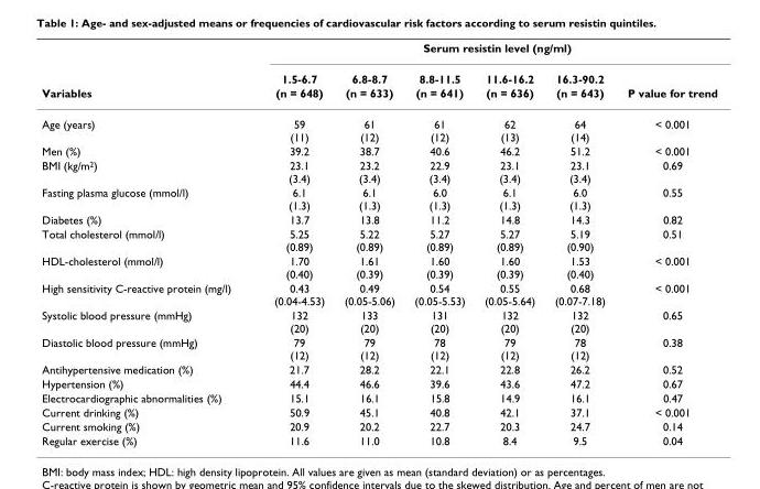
<table><thead><tr><td rowspan="3">Variables</td><td colspan="6">Serum resistin level (ng/ml)</td></tr><tr><td rowspan="2">1.5-6.7 (n = 648)</td><td rowspan="2">6.8-8.7 (n = 633)</td><td rowspan="2">8.8-11.5 (n = 641)</td><td rowspan="2">11.6-16.2 (n = 636)</td><td rowspan="2">16.3-90.2 (n = 643)</td><td rowspan="2">P value for trend</td></tr><tr></tr></thead><tbody><tr><td>Age (years)</td><td>59 (11)</td><td>61 (12)</td><td>61 (12)</td><td>62 (13)</td><td>64 (14)</td><td>&lt; 0.001</td></tr><tr><td>Men (%)</td><td>39.2</td><td>38.7</td><td>40.6</td><td>46.2</td><td>51.2</td><td>&lt; 0.001</td></tr><tr><td>BMI (kg/m<sup>2</sup>)</td><td>23.1 (3.4)</td><td>23.2 (3.4)</td><td>22.9 (3.4)</td><td>23.1 (3.4)</td><td>23.1 (3.4)</td><td>0.69</td></tr><tr><td>Fasting plasma glucose (mmol/l)</td><td>6.1 (1.3)</td><td>6.1 (1.3)</td><td>6.0 (1.3)</td><td>6.1 (1.3)</td><td>6.0 (1.3)</td><td>0.55</td></tr><tr><td>Diabetes (%)</td><td>13.7</td><td>13.8</td><td>11.2</td><td>14.8</td><td>14.3</td><td>0.82</td></tr><tr><td>Total cholesterol (mmol/l)</td><td>5.25 (0.89)</td><td>5.22 (0.89)</td><td>5.27 (0.89)</td><td>5.27 (0.89)</td><td>5.19 (0.90)</td><td>0.51</td></tr><tr><td>HDL-cholesterol (mmol/l)</td><td>1.70 (0.40)</td><td>1.61 (0.39)</td><td>1.60 (0.39)</td><td>1.60 (0.39)</td><td>1.53 (0.40)</td><td>&lt; 0.001</td></tr><tr><td>High sensitivity C-reactive protein (mg/l)</td><td>0.43 (0.04-4.53)</td><td>0.49 (0.05-5.06)</td><td>0.54 (0.05-5.53)</td><td>0.55 (0.05-5.64)</td><td>0.68 (0.07-7.18)</td><td>&lt; 0.001</td></tr><tr><td>Systolic blood pressure (mmHg)</td><td>132 (20)</td><td>133 (20)</td><td>131 (20)</td><td>132 (20)</td><td>132 (20)</td><td>0.65</td></tr><tr><td>Diastolic blood pressure (mmHg)</td><td>79 (12)</td><td>79 (12)</td><td>78 (12)</td><td>79 (12)</td><td>78 (12)</td><td>0.38</td></tr><tr><td>Antihypertensive medication (%)</td><td>21.7</td><td>28.2</td><td>22.1</td><td>22.8</td><td>26.2</td><td>0.52</td></tr><tr><td>Hypertension (%)</td><td>44.4</td><td>46.6</td><td>39.6</td><td>43.6</td><td>47.2</td><td>0.67</td></tr><tr><td>Electrocardiographic abnormalities (%)</td><td>15.1</td><td>16.1</td><td>15.8</td><td>14.9</td><td>16.1</td><td>0.47</td></tr><tr><td>Current drinking (%)</td><td>50.9</td><td>45.1</td><td>40.8</td><td>42.1</td><td>37.1</td><td>&lt; 0.001</td></tr><tr><td>Current smoking (%)</td><td>20.9</td><td>20.2</td><td>22.7</td><td>20.3</td><td>24.7</td><td>0.14</td></tr><tr><td>Regular exercise (%)</td><td>11.6</td><td>11.0</td><td>10.8</td><td>8.4</td><td>9.5</td><td>0.04</td></tr></tbody></table>